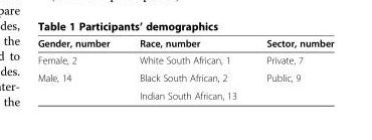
<table><thead><tr><td>Gender, number</td><td>Race, number</td><td>Sector, number</td></tr></thead><tbody><tr><td>Female, 2</td><td>White South African, 1</td><td>Private, 7</td></tr><tr><td rowspan="2">Male, 14</td><td>Black South African, 2</td><td>Public, 9</td></tr><tr><td>Indian South African, 13</td><td></td></tr></tbody></table>